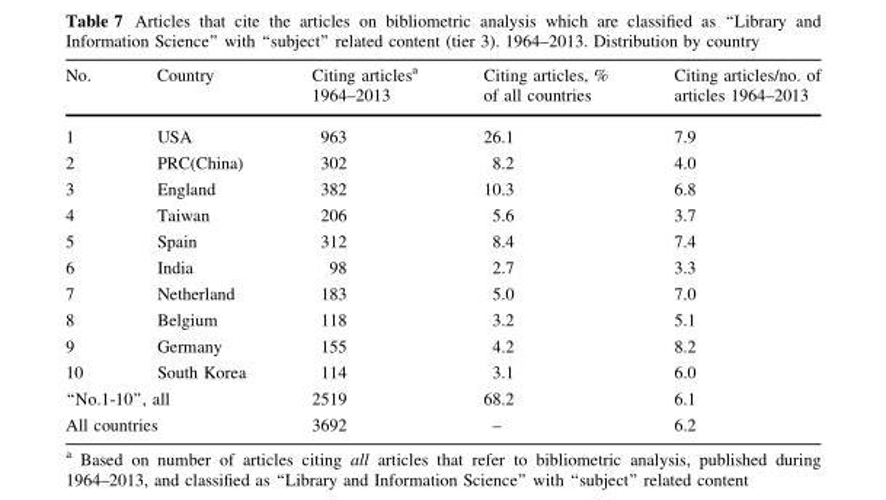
<table><thead><tr><td>No.</td><td>Country</td><td>Citing articles<sup>a</sup> 1964–2013</td><td>Citing articles, % of all countries</td><td>Citing articles/no. of articles 1964–2013</td></tr></thead><tbody><tr><td>1</td><td>USA</td><td>963</td><td>26.1</td><td>7.9</td></tr><tr><td>2</td><td>PRC(China)</td><td>302</td><td>8.2</td><td>4.0</td></tr><tr><td>3</td><td>England</td><td>382</td><td>10.3</td><td>6.8</td></tr><tr><td>4</td><td>Taiwan</td><td>206</td><td>5.6</td><td>3.7</td></tr><tr><td>5</td><td>Spain</td><td>312</td><td>8.4</td><td>7.4</td></tr><tr><td>6</td><td>India</td><td>98</td><td>2.7</td><td>3.3</td></tr><tr><td>7</td><td>Netherland</td><td>183</td><td>5.0</td><td>7.0</td></tr><tr><td>8</td><td>Belgium</td><td>118</td><td>3.2</td><td>5.1</td></tr><tr><td>9</td><td>Germany</td><td>155</td><td>4.2</td><td>8.2</td></tr><tr><td>10</td><td>South Korea</td><td>114</td><td>3.1</td><td>6.0</td></tr><tr><td colspan="2">‘‘No.1-10’’, all</td><td>2519</td><td>68.2</td><td>6.1</td></tr><tr><td colspan="2">All countries</td><td>3692</td><td>–</td><td>6.2</td></tr></tbody></table>